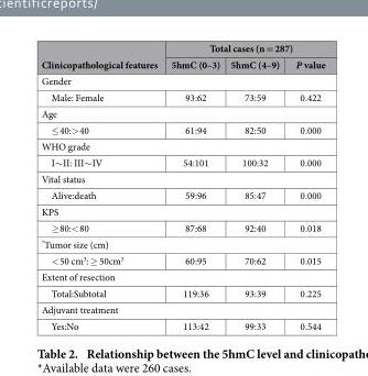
<table><thead><tr><td rowspan="2">Clinicopathological features</td><td colspan="3">Total cases (n = 287)</td></tr><tr><td>5hmC (0–3)</td><td>5hmC (4–9)</td><td>P value</td></tr></thead><tbody><tr><td colspan="4">Gender</td></tr><tr><td>Male: Female</td><td>93:62</td><td>73:59</td><td>0.422</td></tr><tr><td colspan="4">Age</td></tr><tr><td>≤ 40:&gt; 40</td><td>61:94</td><td>82:50</td><td>0.000</td></tr><tr><td colspan="4">WHO grade</td></tr><tr><td>I∼ II: III∼ IV</td><td>54:101</td><td>100:32</td><td>0.000</td></tr><tr><td colspan="4">Vital status</td></tr><tr><td>Alive:death</td><td>59:96</td><td>85:47</td><td>0.000</td></tr><tr><td colspan="4">KPS</td></tr><tr><td>≥ 80:&lt; 80</td><td>87:68</td><td>92:40</td><td>0.018</td></tr><tr><td colspan="4">*Tumor size (cm)</td></tr><tr><td>&lt; 50 cm<sup>3</sup>: ≥ 50cm<sup>3</sup></td><td>60:95</td><td>70:62</td><td>0.015</td></tr><tr><td colspan="4">Extent of resection</td></tr><tr><td>Total:Subtotal</td><td>119:36</td><td>93:39</td><td>0.225</td></tr><tr><td colspan="4">Adjuvant treatment</td></tr><tr><td>Yes:No</td><td>113:42</td><td>99:33</td><td>0.544</td></tr></tbody></table>